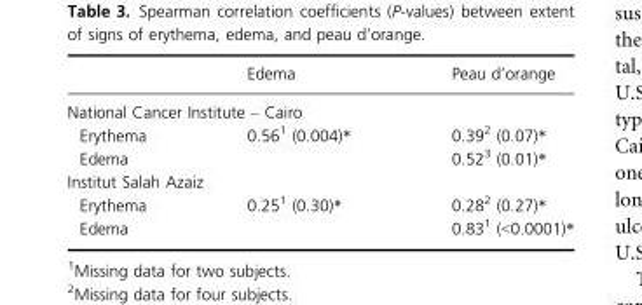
<table><thead><tr><td></td><td>Edema</td><td>Peau d’orange</td></tr></thead><tbody><tr><td colspan="3">National Cancer Institute – Cairo</td></tr><tr><td>Erythema</td><td>0.56<sup>1</sup> (0.004)*</td><td>0.39<sup>2</sup> (0.07)*</td></tr><tr><td>Edema</td><td></td><td>0.52<sup>3</sup> (0.01)*</td></tr><tr><td colspan="3">Institut Salah Azaiz</td></tr><tr><td>Erythema</td><td>0.25<sup>1</sup> (0.30)*</td><td>0.282 (0.27)*</td></tr><tr><td>Edema</td><td></td><td>0.83<sup>1</sup> (&lt;0.0001)*</td></tr></tbody></table>